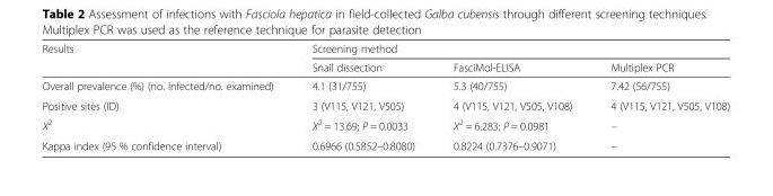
<table><thead><tr><td rowspan="2">Results</td><td colspan="3">Screening method</td></tr><tr><td>Snail dissection</td><td>FasciMol-ELISA</td><td>Multiplex PCR</td></tr></thead><tbody><tr><td>Overall prevalence (%) (no. infected/no. examined)</td><td>4.1 (31/755)</td><td>5.3 (40/755)</td><td>7.42 (56/755)</td></tr><tr><td>Positive sites (ID)</td><td>3 (V115, V121, V505)</td><td>4 (V115, V121, V505, V108)</td><td>4 (V115, V121, V505, V108)</td></tr><tr><td>Χ<sup>2</sup></td><td>Χ<sup>2</sup> = 13.69; P = 0.0033</td><td>Χ<sup>2</sup> = 6.283; P = 0.0981</td><td>–</td></tr><tr><td>Kappa index (95 % confidence interval)</td><td>0.6966 (0.5852–0.8080)</td><td>0.8224 (0.7376–0.9071)</td><td>–</td></tr></tbody></table>